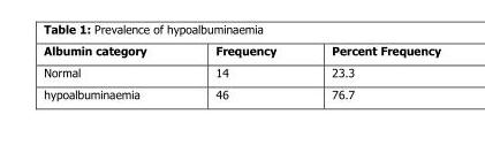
<table><thead><tr><td>Albumin category</td><td>Frequency</td><td>Percent Frequency</td></tr></thead><tbody><tr><td>Normal</td><td>14</td><td>23.3</td></tr><tr><td>hypoalbuminaemia</td><td>46</td><td>76.7</td></tr></tbody></table>